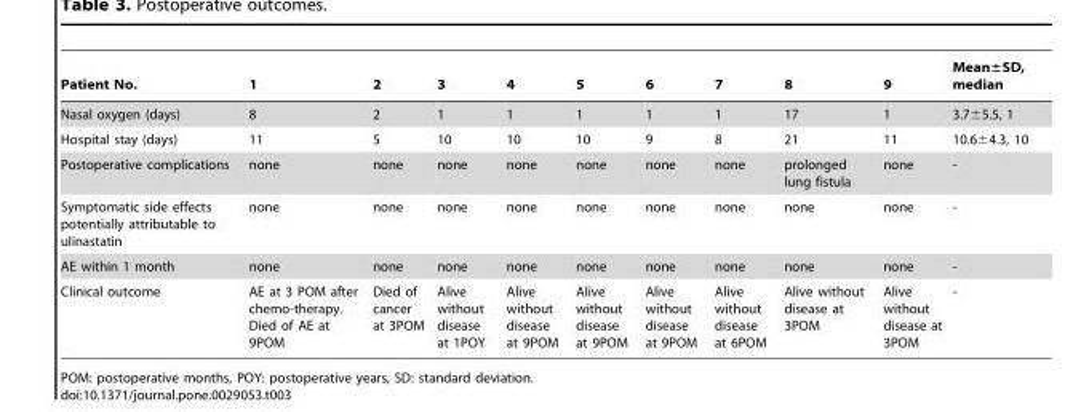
<table><thead><tr><td>Patient No.</td><td>1</td><td>2</td><td>3</td><td>4</td><td>5</td><td>6</td><td>7</td><td>8</td><td>9</td><td>Mean±SD, median</td></tr></thead><tbody><tr><td>Nasal oxygen (days)</td><td>8</td><td>2</td><td>1</td><td>1</td><td>1</td><td>1</td><td>1</td><td>17</td><td>1</td><td>3.7±5.5, 1</td></tr><tr><td>Hospital stay (days)</td><td>11</td><td>5</td><td>10</td><td>10</td><td>10</td><td>9</td><td>8</td><td>21</td><td>11</td><td>10.6±4.3, 10</td></tr><tr><td>Postoperative complications</td><td>none</td><td>none</td><td>none</td><td>none</td><td>none</td><td>none</td><td>none</td><td>prolonged lung fistula</td><td>none</td><td>-</td></tr><tr><td>Symptomatic side effects potentially attributable to ulinastatin</td><td>none</td><td>none</td><td>none</td><td>none</td><td>none</td><td>none</td><td>none</td><td>none</td><td>none</td><td>-</td></tr><tr><td>AE within 1 month</td><td>none</td><td>none</td><td>none</td><td>none</td><td>none</td><td>none</td><td>none</td><td>none</td><td>none</td><td>-</td></tr><tr><td>Clinical outcome</td><td>AE at 3 POM after chemo-therapy. Died of AE at 9POM</td><td>Died of cancer at 3POM</td><td>Alive without disease at 1POY</td><td>Alive without disease at 9POM</td><td>Alive without disease at 9POM</td><td>Alive without disease at 9POM</td><td>Alive without disease at 6POM</td><td>Alive without disease at 3POM</td><td>Alive without disease at 3POM</td><td>-</td></tr></tbody></table>